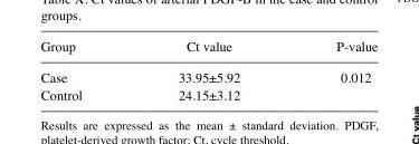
<table><thead><tr><td>Group</td><td>Ct value</td><td>P-value</td></tr></thead><tbody><tr><td>Case</td><td>33.95±5.92</td><td>0.012</td></tr><tr><td>Control</td><td>24.15±3.12</td><td></td></tr></tbody></table>